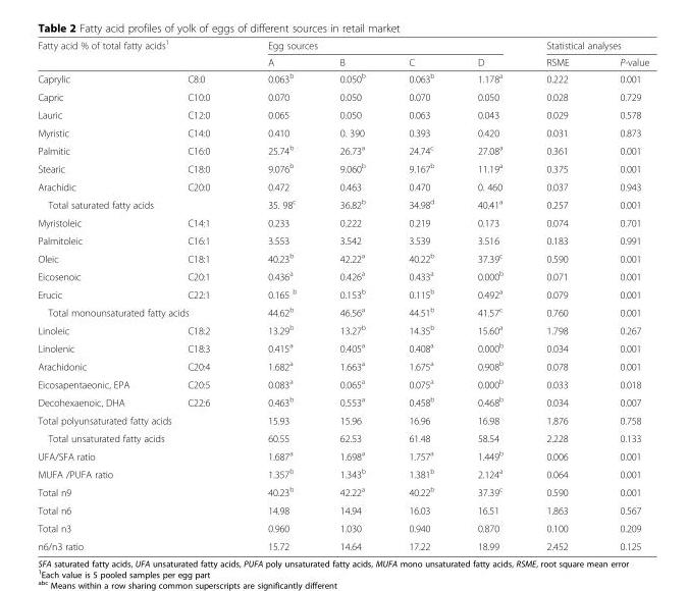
<table><thead><tr><td rowspan="2" colspan="2">Fatty acid % of total fatty acids<sup>1</sup></td><td colspan="4">Egg sources</td><td colspan="2">Statistical analyses</td></tr><tr><td rowspan="2">A 0.063<sup>b</sup></td><td rowspan="2">B 0.050<sup>b</sup></td><td rowspan="2">C 0.063<sup>b</sup></td><td rowspan="2">D 1.178<sup>a</sup></td><td rowspan="2">RSME 0.222</td><td rowspan="2">P-value 0.001</td></tr><tr><td>Caprylic</td><td>C8:0</td></tr></thead><tbody><tr><td>Capric</td><td>C10:0</td><td>0.070</td><td>0.050</td><td>0.070</td><td>0.050</td><td>0.028</td><td>0.729</td></tr><tr><td>Lauric</td><td>C12:0</td><td>0.065</td><td>0.050</td><td>0.063</td><td>0.043</td><td>0.029</td><td>0.578</td></tr><tr><td>Myristic</td><td>C14:0</td><td>0.410</td><td>0. 390</td><td>0.393</td><td>0.420</td><td>0.031</td><td>0.873</td></tr><tr><td>Palmitic</td><td>C16:0</td><td>25.74<sup>b</sup></td><td>26.73<sup>a</sup></td><td>24.74<sup>c</sup></td><td>27.08<sup>a</sup></td><td>0.361</td><td>0.001</td></tr><tr><td>Stearic</td><td>C18:0</td><td>9.076<sup>b</sup></td><td>9.060<sup>b</sup></td><td>9.167<sup>b</sup></td><td>11.19<sup>a</sup></td><td>0.375</td><td>0.001</td></tr><tr><td>Arachidic</td><td>C20:0</td><td>0.472</td><td>0.463</td><td>0.470</td><td>0. 460</td><td>0.037</td><td>0.943</td></tr><tr><td colspan="2">Total saturated fatty acids</td><td>35. 98<sup>c</sup></td><td>36.82<sup>b</sup></td><td>34.98<sup>d</sup></td><td>40.41<sup>a</sup></td><td>0.257</td><td>0.001</td></tr><tr><td>Myristoleic</td><td>C14:1</td><td>0.233</td><td>0.222</td><td>0.219</td><td>0.173</td><td>0.074</td><td>0.701</td></tr><tr><td>Palmitoleic</td><td>C16:1</td><td>3.553</td><td>3.542</td><td>3.539</td><td>3.516</td><td>0.183</td><td>0.991</td></tr><tr><td>Oleic</td><td>C18:1</td><td>40.23<sup>b</sup></td><td>42.22<sup>a</sup></td><td>40.22<sup>b</sup></td><td>37.39<sup>c</sup></td><td>0.590</td><td>0.001</td></tr><tr><td>Eicosenoic</td><td>C20:1</td><td>0.436<sup>a</sup></td><td>0.426<sup>a</sup></td><td>0.433<sup>a</sup></td><td>0.000<sup>b</sup></td><td>0.071</td><td>0.001</td></tr><tr><td>Erucic</td><td>C22:1</td><td>0.165 <sup>b</sup></td><td>0.153<sup>b</sup></td><td>0.115<sup>b</sup></td><td>0.492<sup>a</sup></td><td>0.079</td><td>0.001</td></tr><tr><td colspan="2">Total monounsaturated fatty acids</td><td>44.62<sup>b</sup></td><td>46.56<sup>a</sup></td><td>44.51<sup>b</sup></td><td>41.57<sup>c</sup></td><td>0.760</td><td>0.001</td></tr><tr><td>Linoleic</td><td>C18:2</td><td>13.29<sup>b</sup></td><td>13.27<sup>b</sup></td><td>14.35<sup>b</sup></td><td>15.60<sup>a</sup></td><td>1.798</td><td>0.267</td></tr><tr><td>Linolenic</td><td>C18:3</td><td>0.415<sup>a</sup></td><td>0.405<sup>a</sup></td><td>0.408<sup>a</sup></td><td>0.000<sup>b</sup></td><td>0.034</td><td>0.001</td></tr><tr><td>Arachidonic</td><td>C20:4</td><td>1.682<sup>a</sup></td><td>1.663<sup>a</sup></td><td>1.675<sup>a</sup></td><td>0.908<sup>b</sup></td><td>0.078</td><td>0.001</td></tr><tr><td>Eicosapentaeonic, EPA</td><td>C20:5</td><td>0.083<sup>a</sup></td><td>0.065<sup>a</sup></td><td>0.075<sup>a</sup></td><td>0.000<sup>b</sup></td><td>0.033</td><td>0.018</td></tr><tr><td>Decohexaenoic, DHA</td><td>C22:6</td><td>0.463<sup>b</sup></td><td>0.553<sup>a</sup></td><td>0.458<sup>b</sup></td><td>0.468<sup>b</sup></td><td>0.034</td><td>0.007</td></tr><tr><td colspan="2">Total polyunsaturated fatty acids</td><td>15.93</td><td>15.96</td><td>16.96</td><td>16.98</td><td>1.876</td><td>0.758</td></tr><tr><td colspan="2">Total unsaturated fatty acids</td><td>60.55</td><td>62.53</td><td>61.48</td><td>58.54</td><td>2.228</td><td>0.133</td></tr><tr><td colspan="2">UFA/SFA ratio</td><td>1.687<sup>a</sup></td><td>1.698<sup>a</sup></td><td>1.757<sup>a</sup></td><td>1.449<sup>b</sup></td><td>0.006</td><td>0.001</td></tr><tr><td colspan="2">MUFA /PUFA ratio</td><td>1.357<sup>b</sup></td><td>1.343<sup>b</sup></td><td>1.381<sup>b</sup></td><td>2.124<sup>a</sup></td><td>0.064</td><td>0.001</td></tr><tr><td colspan="2">Total n9</td><td>40.23<sup>b</sup></td><td>42.22<sup>a</sup></td><td>40.22<sup>b</sup></td><td>37.39<sup>c</sup></td><td>0.590</td><td>0.001</td></tr><tr><td colspan="2">Total n6</td><td>14.98</td><td>14.94</td><td>16.03</td><td>16.51</td><td>1.863</td><td>0.567</td></tr><tr><td colspan="2">Total n3</td><td>0.960</td><td>1.030</td><td>0.940</td><td>0.870</td><td>0.100</td><td>0.209</td></tr><tr><td colspan="2">n6/n3 ratio</td><td>15.72</td><td>14.64</td><td>17.22</td><td>18.99</td><td>2.452</td><td>0.125</td></tr></tbody></table>